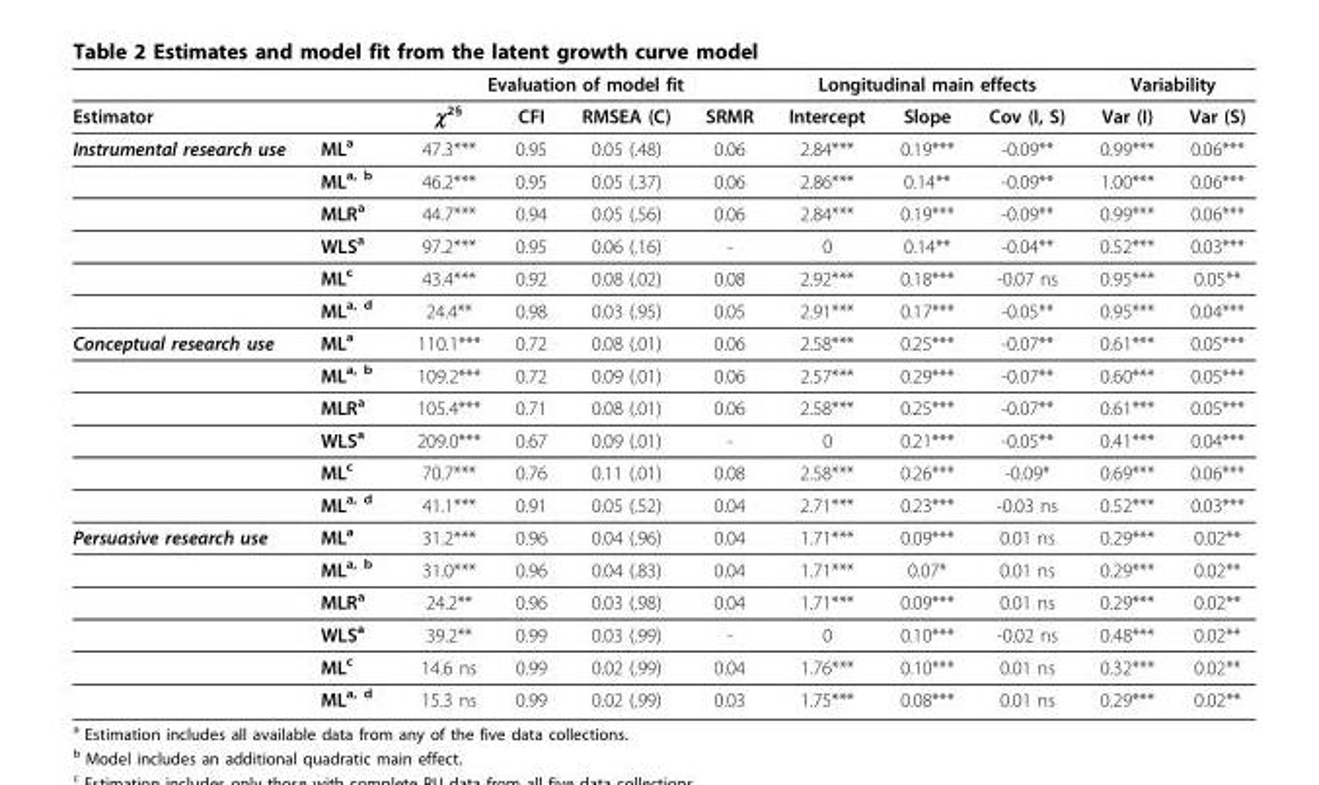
<table><thead><tr><td rowspan="2">Estimator</td><td rowspan="2"></td><td colspan="4">Evaluation of model fit</td><td colspan="3">Longitudinal main effects</td><td colspan="2">Variability</td></tr><tr><td>χ<sup>2§</sup></td><td>CFI</td><td>RMSEA (C)</td><td>SRMR</td><td>Intercept</td><td>Slope</td><td>Cov (I, S)</td><td>Var (I)</td><td>Var (S)</td></tr></thead><tbody><tr><td rowspan="6">Instrumental research use</td><td>ML<sup>a</sup></td><td>47.3***</td><td>0.95</td><td>0.05 (.48)</td><td>0.06</td><td>2.84***</td><td>0.19***</td><td>-0.09**</td><td>0.99***</td><td>0.06***</td></tr><tr><td>ML<sup>a, b</sup></td><td>46.2***</td><td>0.95</td><td>0.05 (.37)</td><td>0.06</td><td>2.86***</td><td>0.14**</td><td>-0.09**</td><td>1.00***</td><td>0.06***</td></tr><tr><td>MLR<sup>a</sup></td><td>44.7***</td><td>0.94</td><td>0.05 (.56)</td><td>0.06</td><td>2.84***</td><td>0.19***</td><td>-0.09**</td><td>0.99***</td><td>0.06***</td></tr><tr><td>WLS<sup>a</sup></td><td>97.2***</td><td>0.95</td><td>0.06 (.16)</td><td>-</td><td>0</td><td>0.14**</td><td>-0.04**</td><td>0.52***</td><td>0.03***</td></tr><tr><td>ML<sup>c</sup></td><td>43.4***</td><td>0.92</td><td>0.08 (.02)</td><td>0.08</td><td>2.92***</td><td>0.18***</td><td>-0.07 ns</td><td>0.95***</td><td>0.05**</td></tr><tr><td>ML<sup>a, d</sup></td><td>24.4**</td><td>0.98</td><td>0.03 (.95)</td><td>0.05</td><td>2.91***</td><td>0.17***</td><td>-0.05**</td><td>0.95***</td><td>0.04***</td></tr><tr><td rowspan="6">Conceptual research use</td><td>ML<sup>a</sup></td><td>110.1***</td><td>0.72</td><td>0.08 (.01)</td><td>0.06</td><td>2.58***</td><td>0.25***</td><td>-0.07**</td><td>0.61***</td><td>0.05***</td></tr><tr><td>ML<sup>a, b</sup></td><td>109.2***</td><td>0.72</td><td>0.09 (.01)</td><td>0.06</td><td>2.57***</td><td>0.29***</td><td>-0.07**</td><td>0.60***</td><td>0.05***</td></tr><tr><td>MLR<sup>a</sup></td><td>105.4***</td><td>0.71</td><td>0.08 (.01)</td><td>0.06</td><td>2.58***</td><td>0.25***</td><td>-0.07**</td><td>0.61***</td><td>0.05***</td></tr><tr><td>WLS<sup>a</sup></td><td>209.0***</td><td>0.67</td><td>0.09 (.01)</td><td>-</td><td>0</td><td>0.21***</td><td>-0.05**</td><td>0.41***</td><td>0.04***</td></tr><tr><td>ML<sup>c</sup></td><td>70.7***</td><td>0.76</td><td>0.11 (.01)</td><td>0.08</td><td>2.58***</td><td>0.26***</td><td>-0.09*</td><td>0.69***</td><td>0.06***</td></tr><tr><td>ML<sup>a, d</sup></td><td>41.1***</td><td>0.91</td><td>0.05 (.52)</td><td>0.04</td><td>2.71***</td><td>0.23***</td><td>-0.03 ns</td><td>0.52***</td><td>0.03***</td></tr><tr><td rowspan="6">Persuasive research use</td><td>ML<sup>a</sup></td><td>31.2***</td><td>0.96</td><td>0.04 (.96)</td><td>0.04</td><td>1.71***</td><td>0.09***</td><td>0.01 ns</td><td>0.29***</td><td>0.02**</td></tr><tr><td>ML<sup>a, b</sup></td><td>31.0***</td><td>0.96</td><td>0.04 (.83)</td><td>0.04</td><td>1.71***</td><td>0.07*</td><td>0.01 ns</td><td>0.29***</td><td>0.02**</td></tr><tr><td>MLR<sup>a</sup></td><td>24.2**</td><td>0.96</td><td>0.03 (.98)</td><td>0.04</td><td>1.71***</td><td>0.09***</td><td>0.01 ns</td><td>0.29***</td><td>0.02**</td></tr><tr><td>WLS<sup>a</sup></td><td>39.2**</td><td>0.99</td><td>0.03 (.99)</td><td>-</td><td>0</td><td>0.10***</td><td>-0.02 ns</td><td>0.48***</td><td>0.02**</td></tr><tr><td>ML<sup>c</sup></td><td>14.6 ns</td><td>0.99</td><td>0.02 (.99)</td><td>0.04</td><td>1.76***</td><td>0.10***</td><td>0.01 ns</td><td>0.32***</td><td>0.02**</td></tr><tr><td>ML<sup>a, d</sup></td><td>15.3 ns</td><td>0.99</td><td>0.02 (.99)</td><td>0.03</td><td>1.75***</td><td>0.08***</td><td>0.01 ns</td><td>0.29***</td><td>0.02**</td></tr></tbody></table>